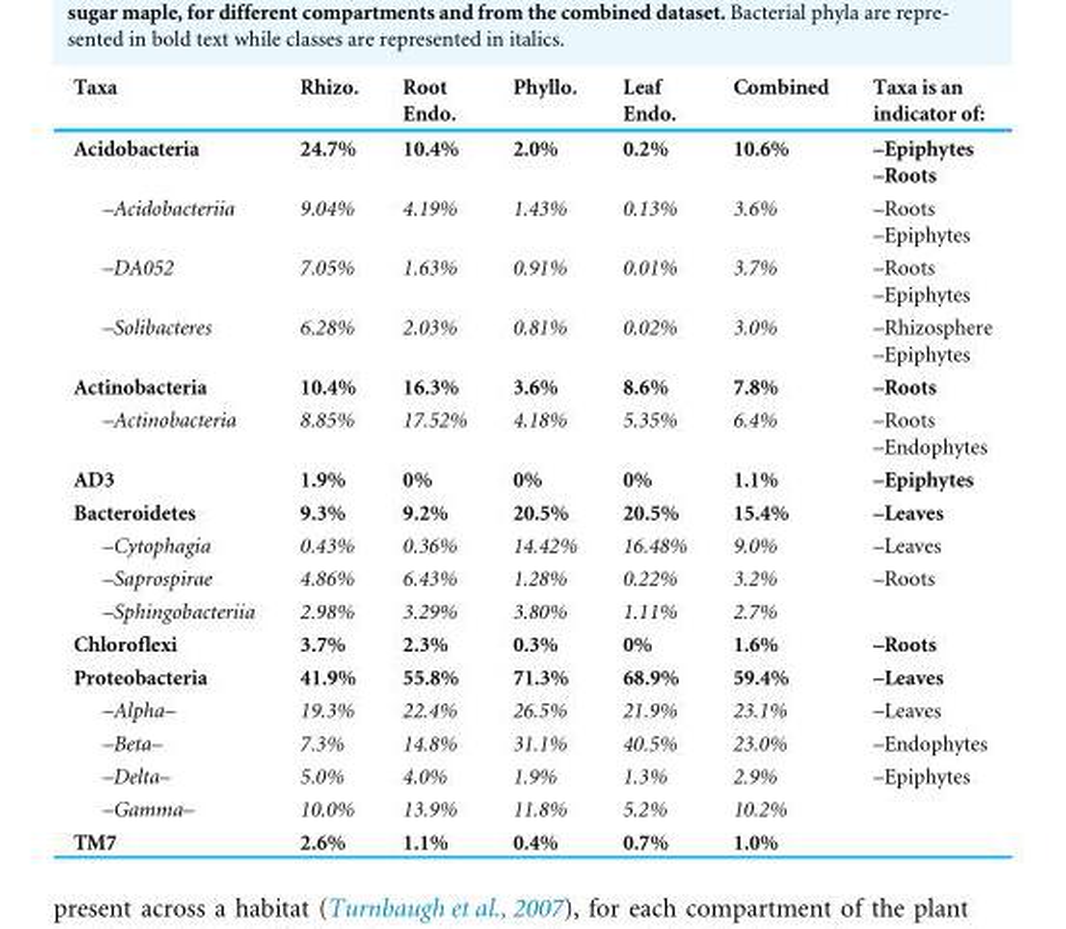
<table><thead><tr><td>Taxa</td><td>Rhizo.</td><td>Root Endo.</td><td>Phyllo.</td><td>Leaf Endo.</td><td>Combined</td><td>Taxa is an indicator of:</td></tr></thead><tbody><tr><td>Acidobacteria</td><td>24.7%</td><td>10.4%</td><td>2.0%</td><td>0.2%</td><td>10.6%</td><td>–Epiphytes –Roots</td></tr><tr><td>–Acidobacteriia</td><td>9.04%</td><td>4.19%</td><td>1.43%</td><td>0.13%</td><td>3.6%</td><td>–Roots –Epiphytes</td></tr><tr><td>–DA052</td><td>7.05%</td><td>1.63%</td><td>0.91%</td><td>0.01%</td><td>3.7%</td><td>–Roots –Epiphytes</td></tr><tr><td>–Solibacteres</td><td>6.28%</td><td>2.03%</td><td>0.81%</td><td>0.02%</td><td>3.0%</td><td>–Rhizosphere –Epiphytes</td></tr><tr><td>Actinobacteria</td><td>10.4%</td><td>16.3%</td><td>3.6%</td><td>8.6%</td><td>7.8%</td><td>–Roots</td></tr><tr><td>–Actinobacteria</td><td>8.85%</td><td>17.52%</td><td>4.18%</td><td>5.35%</td><td>6.4%</td><td>–Roots –Endophytes</td></tr><tr><td>AD3</td><td>1.9%</td><td>0%</td><td>0%</td><td>0%</td><td>1.1%</td><td>–Epiphytes</td></tr><tr><td>Bacteroidetes</td><td>9.3%</td><td>9.2%</td><td>20.5%</td><td>20.5%</td><td>15.4%</td><td>–Leaves</td></tr><tr><td>–Cytophagia</td><td>0.43%</td><td>0.36%</td><td>14.42%</td><td>16.48%</td><td>9.0%</td><td>–Leaves</td></tr><tr><td>–Saprospirae</td><td>4.86%</td><td>6.43%</td><td>1.28%</td><td>0.22%</td><td>3.2%</td><td>–Roots</td></tr><tr><td>–Sphingobacteriia</td><td>2.98%</td><td>3.29%</td><td>3.80%</td><td>1.11%</td><td>2.7%</td><td></td></tr><tr><td>Chloroflexi</td><td>3.7%</td><td>2.3%</td><td>0.3%</td><td>0%</td><td>1.6%</td><td>–Roots</td></tr><tr><td>Proteobacteria</td><td>41.9%</td><td>55.8%</td><td>71.3%</td><td>68.9%</td><td>59.4%</td><td>–Leaves</td></tr><tr><td>–Alpha–</td><td>19.3%</td><td>22.4%</td><td>26.5%</td><td>21.9%</td><td>23.1%</td><td>–Leaves</td></tr><tr><td>–Beta–</td><td>7.3%</td><td>14.8%</td><td>31.1%</td><td>40.5%</td><td>23.0%</td><td>–Endophytes</td></tr><tr><td>–Delta–</td><td>5.0%</td><td>4.0%</td><td>1.9%</td><td>1.3%</td><td>2.9%</td><td>–Epiphytes</td></tr><tr><td>–Gamma–</td><td>10.0%</td><td>13.9%</td><td>11.8%</td><td>5.2%</td><td>10.2%</td><td></td></tr><tr><td>TM7</td><td>2.6%</td><td>1.1%</td><td>0.4%</td><td>0.7%</td><td>1.0%</td><td></td></tr></tbody></table>